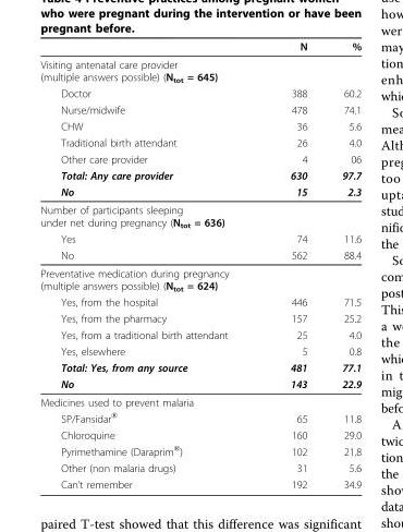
<table><thead><tr><td></td><td>N</td><td>%</td></tr></thead><tbody><tr><td colspan="3">Visiting antenatal care provider (multiple answers possible) (N<sub>tot</sub> = 645)</td></tr><tr><td>Doctor</td><td>388</td><td>60.2</td></tr><tr><td>Nurse/midwife</td><td>478</td><td>74.1</td></tr><tr><td>CHW</td><td>36</td><td>5.6</td></tr><tr><td>Traditional birth attendant</td><td>26</td><td>4.0</td></tr><tr><td>Other care provider</td><td>4</td><td>06</td></tr><tr><td>Total: Any care provider</td><td>630</td><td>97.7</td></tr><tr><td>No</td><td>15</td><td>2.3</td></tr><tr><td colspan="3">Number of participants sleeping under net during pregnancy (N<sub>tot</sub> = 636)</td></tr><tr><td>Yes</td><td>74</td><td>11.6</td></tr><tr><td>No</td><td>562</td><td>88.4</td></tr><tr><td colspan="3">Preventative medication during pregnancy (multiple answers possible) (N<sub>tot</sub> = 624)</td></tr><tr><td>Yes, from the hospital</td><td>446</td><td>71.5</td></tr><tr><td>Yes, from the pharmacy</td><td>157</td><td>25.2</td></tr><tr><td>Yes, from a traditional birth attendant</td><td>25</td><td>4.0</td></tr><tr><td>Yes, elsewhere</td><td>5</td><td>0.8</td></tr><tr><td>Total: Yes, from any source</td><td>481</td><td>77.1</td></tr><tr><td>No</td><td>143</td><td>22.9</td></tr><tr><td colspan="3">Medicines used to prevent malaria</td></tr><tr><td>SP/Fansidar<sup>®</sup></td><td>65</td><td>11.8</td></tr><tr><td>Chloroquine</td><td>160</td><td>29.0</td></tr><tr><td>Pyrimethamine (Daraprim<sup>®</sup>)</td><td>102</td><td>21.8</td></tr><tr><td>Other (non malaria drugs)</td><td>31</td><td>5.6</td></tr><tr><td>Can’t remember</td><td>192</td><td>34.9</td></tr></tbody></table>